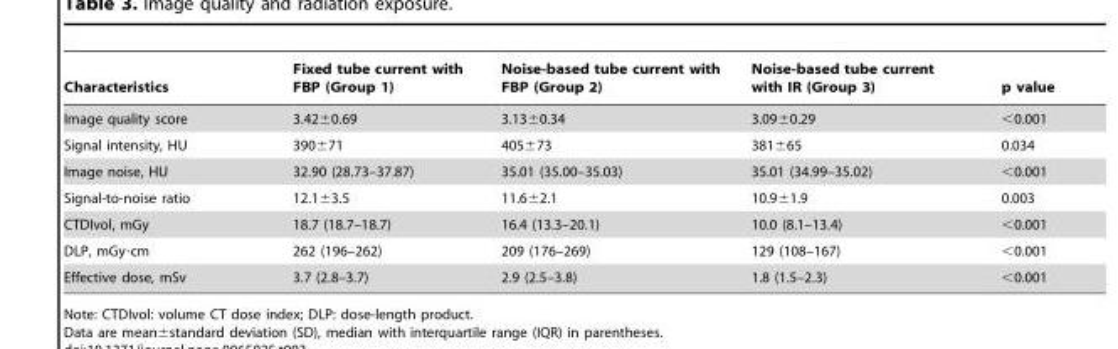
<table><thead><tr><td>Characteristics</td><td>Fixed tube current with FBP (Group 1)</td><td>Noise-based tube current with FBP (Group 2)</td><td>Noise-based tube current with IR (Group 3)</td><td>p value</td></tr></thead><tbody><tr><td>Image quality score</td><td>3.42±0.69</td><td>3.13±0.34</td><td>3.09±0.29</td><td>&lt;0.001</td></tr><tr><td>Signal intensity, HU</td><td>390±71</td><td>405±73</td><td>381±65</td><td>0.034</td></tr><tr><td>Image noise, HU</td><td>32.90 (28.73–37.87)</td><td>35.01 (35.00–35.03)</td><td>35.01 (34.99–35.02)</td><td>&lt;0.001</td></tr><tr><td>Signal-to-noise ratio</td><td>12.1±3.5</td><td>11.6±2.1</td><td>10.9±1.9</td><td>0.003</td></tr><tr><td>CTDIvol, mGy</td><td>18.7 (18.7–18.7)</td><td>16.4 (13.3–20.1)</td><td>10.0 (8.1–13.4)</td><td>&lt;0.001</td></tr><tr><td>DLP, mGy·cm</td><td>262 (196–262)</td><td>209 (176–269)</td><td>129 (108–167)</td><td>&lt;0.001</td></tr><tr><td>Effective dose, mSv</td><td>3.7 (2.8–3.7)</td><td>2.9 (2.5–3.8)</td><td>1.8 (1.5–2.3)</td><td>&lt;0.001</td></tr></tbody></table>